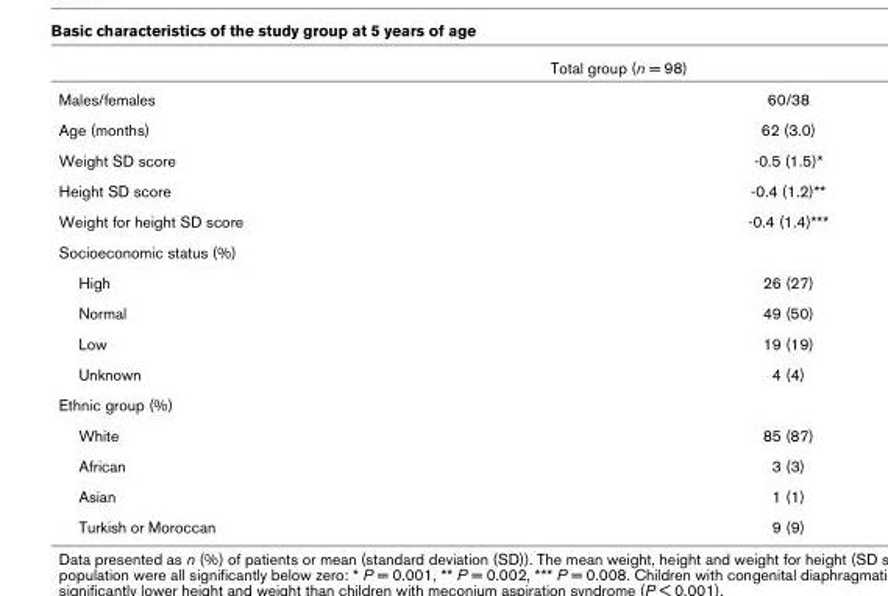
<table><thead><tr><td></td><td>Total group (n = 98)</td></tr></thead><tbody><tr><td>Males/females</td><td>60/38</td></tr><tr><td>Age (months)</td><td>62 (3.0)</td></tr><tr><td>Weight SD score</td><td>-0.5 (1.5)*</td></tr><tr><td>Height SD score</td><td>-0.4 (1.2)**</td></tr><tr><td>Weight for height SD score</td><td>-0.4 (1.4)***</td></tr><tr><td colspan="2">Socioeconomic status (%)</td></tr><tr><td>High</td><td>26 (27)</td></tr><tr><td>Normal</td><td>49 (50)</td></tr><tr><td>Low</td><td>19 (19)</td></tr><tr><td>Unknown</td><td>4 (4)</td></tr><tr><td colspan="2">Ethnic group (%)</td></tr><tr><td>White</td><td>85 (87)</td></tr><tr><td>African</td><td>3 (3)</td></tr><tr><td>Asian</td><td>1 (1)</td></tr><tr><td>Turkish or Moroccan</td><td>9 (9)</td></tr></tbody></table>